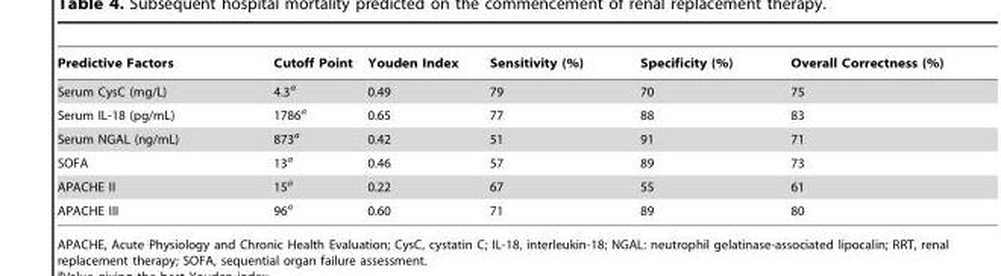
<table><thead><tr><td>Predictive Factors</td><td>Cutoff Point</td><td>Youden Index</td><td>Sensitivity (%)</td><td>Specificity (%)</td><td>Overall Correctness (%)</td></tr></thead><tbody><tr><td>Serum CysC (mg/L)</td><td>4.3<sup>a</sup></td><td>0.49</td><td>79</td><td>70</td><td>75</td></tr><tr><td>Serum IL-18 (pg/mL)</td><td>1786<sup>a</sup></td><td>0.65</td><td>77</td><td>88</td><td>83</td></tr><tr><td>Serum NGAL (ng/mL)</td><td>873<sup>a</sup></td><td>0.42</td><td>51</td><td>91</td><td>71</td></tr><tr><td>SOFA</td><td>13<sup>a</sup></td><td>0.46</td><td>57</td><td>89</td><td>73</td></tr><tr><td>APACHE II</td><td>15<sup>a</sup></td><td>0.22</td><td>67</td><td>55</td><td>61</td></tr><tr><td>APACHE III</td><td>96<sup>a</sup></td><td>0.60</td><td>71</td><td>89</td><td>80</td></tr></tbody></table>